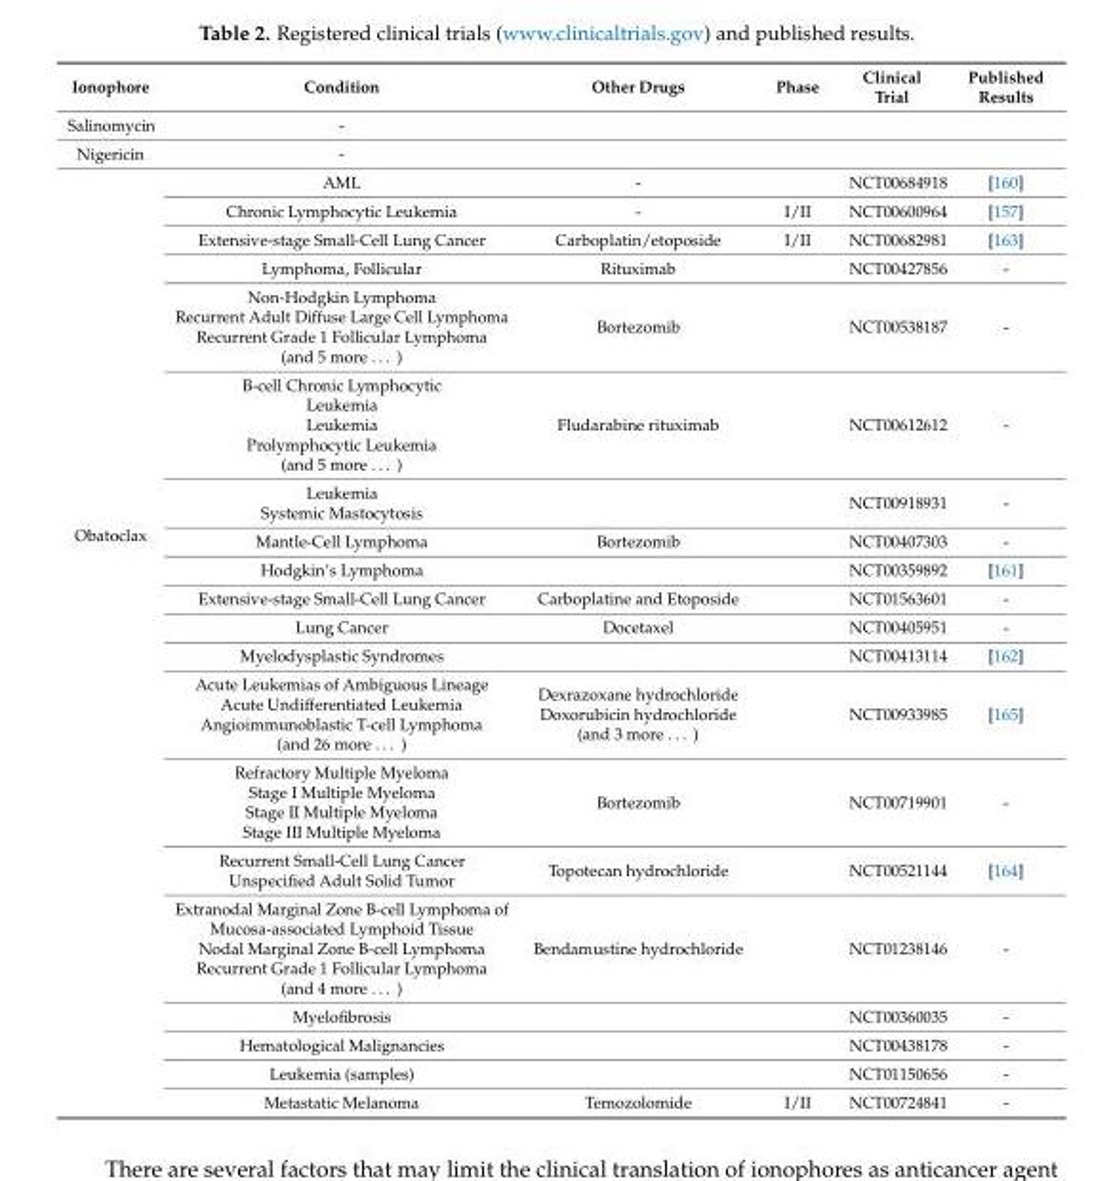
<table><thead><tr><td>Ionophore</td><td>Condition</td><td>Other Drugs</td><td>Phase</td><td>Clinical Trial</td><td>Published Results</td></tr></thead><tbody><tr><td>Salinomycin</td><td>-</td><td></td><td></td><td></td><td></td></tr><tr><td>Nigericin</td><td>-</td><td></td><td></td><td></td><td></td></tr><tr><td rowspan="20">Obatoclax</td><td>AML</td><td>-</td><td></td><td>NCT00684918</td><td>[160]</td></tr><tr><td>Chronic Lymphocytic Leukemia</td><td>-</td><td>I/II</td><td>NCT00600964</td><td>[157]</td></tr><tr><td>Extensive-stage Small-Cell Lung Cancer</td><td>Carboplatin/etoposide</td><td>I/II</td><td>NCT00682981</td><td>[163]</td></tr><tr><td>Lymphoma, Follicular</td><td>Rituximab</td><td></td><td>NCT00427856</td><td>-</td></tr><tr><td>Non-Hodgkin Lymphoma Recurrent Adult Diffuse Large Cell Lymphoma Recurrent Grade 1 Follicular Lymphoma (and 5 more . . . )</td><td>Bortezomib</td><td></td><td>NCT00538187</td><td>-</td></tr><tr><td>B-cell Chronic Lymphocytic Leukemia Leukemia Prolymphocytic Leukemia (and 5 more . . . )</td><td>Fludarabine rituximab</td><td></td><td>NCT00612612</td><td>-</td></tr><tr><td>Leukemia Systemic Mastocytosis</td><td></td><td></td><td>NCT00918931</td><td>-</td></tr><tr><td>Mantle-Cell Lymphoma</td><td>Bortezomib</td><td></td><td>NCT00407303</td><td>-</td></tr><tr><td>Hodgkin’s Lymphoma</td><td></td><td></td><td>NCT00359892</td><td>[161]</td></tr><tr><td>Extensive-stage Small-Cell Lung Cancer</td><td>Carboplatine and Etoposide</td><td></td><td>NCT01563601</td><td>-</td></tr><tr><td>Lung Cancer</td><td>Docetaxel</td><td></td><td>NCT00405951</td><td>-</td></tr><tr><td>Myelodysplastic Syndromes</td><td></td><td></td><td>NCT00413114</td><td>[162]</td></tr><tr><td>Acute Leukemias of Ambiguous Lineage Acute Undifferentiated Leukemia Angioimmunoblastic T-cell Lymphoma (and 26 more . . . )</td><td>Dexrazoxane hydrochloride Doxorubicin hydrochloride (and 3 more . . . )</td><td></td><td>NCT00933985</td><td>[165]</td></tr><tr><td>Refractory Multiple Myeloma Stage I Multiple Myeloma Stage II Multiple Myeloma Stage III Multiple Myeloma</td><td>Bortezomib</td><td></td><td>NCT00719901</td><td>-</td></tr><tr><td>Recurrent Small-Cell Lung Cancer Unspecified Adult Solid Tumor</td><td>Topotecan hydrochloride</td><td></td><td>NCT00521144</td><td>[164]</td></tr><tr><td>Extranodal Marginal Zone B-cell Lymphoma of Mucosa-associated Lymphoid Tissue Nodal Marginal Zone B-cell Lymphoma Recurrent Grade 1 Follicular Lymphoma (and 4 more . . . )</td><td>Bendamustine hydrochloride</td><td></td><td>NCT01238146</td><td>-</td></tr><tr><td>Myelofibrosis</td><td></td><td></td><td>NCT00360035</td><td>-</td></tr><tr><td>Hematological Malignancies</td><td></td><td></td><td>NCT00438178</td><td>-</td></tr><tr><td>Leukemia (samples)</td><td></td><td></td><td>NCT01150656</td><td>-</td></tr><tr><td>Metastatic Melanoma</td><td>Temozolomide</td><td>I/II</td><td>NCT00724841</td><td>-</td></tr></tbody></table>